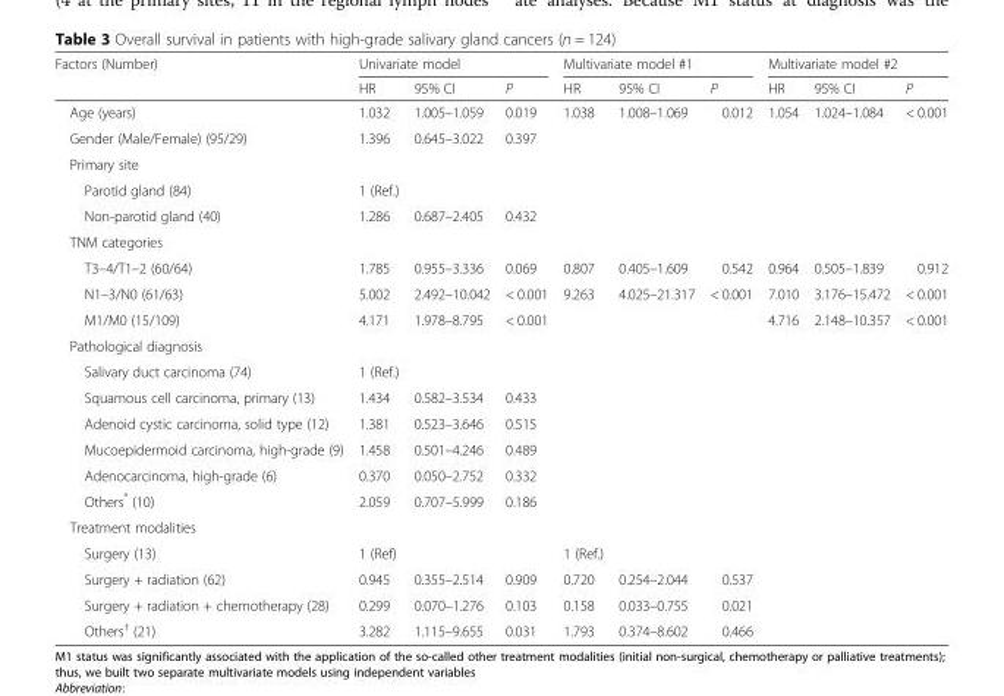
<table><thead><tr><td rowspan="2">Factors (Number)</td><td colspan="3">Univariate model</td><td colspan="3">Multivariate model #1</td><td colspan="3">Multivariate model #2</td></tr><tr><td>HR</td><td>95% CI</td><td>P</td><td>HR</td><td>95% CI</td><td>P</td><td>HR</td><td>95% CI</td><td>P</td></tr></thead><tbody><tr><td>Age (years)</td><td>1.032</td><td>1.005–1.059</td><td>0.019</td><td>1.038</td><td>1.008–1.069</td><td>0.012</td><td>1.054</td><td>1.024–1.084</td><td>&lt; 0.001</td></tr><tr><td>Gender (Male/Female) (95/29)</td><td>1.396</td><td>0.645–3.022</td><td>0.397</td><td></td><td></td><td></td><td></td><td></td><td></td></tr><tr><td colspan="10">Primary site</td></tr><tr><td>Parotid gland (84)</td><td>1 (Ref.)</td><td></td><td></td><td></td><td></td><td></td><td></td><td></td><td></td></tr><tr><td>Non-parotid gland (40)</td><td>1.286</td><td>0.687–2.405</td><td>0.432</td><td></td><td></td><td></td><td></td><td></td><td></td></tr><tr><td colspan="10">TNM categories</td></tr><tr><td>T3–4/T1–2 (60/64)</td><td>1.785</td><td>0.955–3.336</td><td>0.069</td><td>0.807</td><td>0.405–1.609</td><td>0.542</td><td>0.964</td><td>0.505–1.839</td><td>0.912</td></tr><tr><td>N1–3/N0 (61/63)</td><td>5.002</td><td>2.492–10.042</td><td>&lt; 0.001</td><td>9.263</td><td>4.025–21.317</td><td>&lt; 0.001</td><td>7.010</td><td>3.176–15.472</td><td>&lt; 0.001</td></tr><tr><td>M1/M0 (15/109)</td><td>4.171</td><td>1.978–8.795</td><td>&lt; 0.001</td><td></td><td></td><td></td><td>4.716</td><td>2.148–10.357</td><td>&lt; 0.001</td></tr><tr><td colspan="10">Pathological diagnosis</td></tr><tr><td>Salivary duct carcinoma (74)</td><td>1 (Ref.)</td><td></td><td></td><td></td><td></td><td></td><td></td><td></td><td></td></tr><tr><td>Squamous cell carcinoma, primary (13)</td><td>1.434</td><td>0.582–3.534</td><td>0.433</td><td></td><td></td><td></td><td></td><td></td><td></td></tr><tr><td>Adenoid cystic carcinoma, solid type (12)</td><td>1.381</td><td>0.523–3.646</td><td>0.515</td><td></td><td></td><td></td><td></td><td></td><td></td></tr><tr><td>Mucoepidermoid carcinoma, high-grade (9)</td><td>1.458</td><td>0.501–4.246</td><td>0.489</td><td></td><td></td><td></td><td></td><td></td><td></td></tr><tr><td>Adenocarcinoma, high-grade (6)</td><td>0.370</td><td>0.050–2.752</td><td>0.332</td><td></td><td></td><td></td><td></td><td></td><td></td></tr><tr><td>Others* (10)</td><td>2.059</td><td>0.707–5.999</td><td>0.186</td><td></td><td></td><td></td><td></td><td></td><td></td></tr><tr><td colspan="10">Treatment modalities</td></tr><tr><td>Surgery (13)</td><td>1 (Ref)</td><td></td><td></td><td>1 (Ref.)</td><td></td><td></td><td></td><td></td><td></td></tr><tr><td>Surgery + radiation (62)</td><td>0.945</td><td>0.355–2.514</td><td>0.909</td><td>0.720</td><td>0.254–2.044</td><td>0.537</td><td></td><td></td><td></td></tr><tr><td>Surgery + radiation + chemotherapy (28)</td><td>0.299</td><td>0.070–1.276</td><td>0.103</td><td>0.158</td><td>0.033–0.755</td><td>0.021</td><td></td><td></td><td></td></tr><tr><td>Others<sup>†</sup> (21)</td><td>3.282</td><td>1.115–9.655</td><td>0.031</td><td>1.793</td><td>0.374–8.602</td><td>0.466</td><td></td><td></td><td></td></tr></tbody></table>